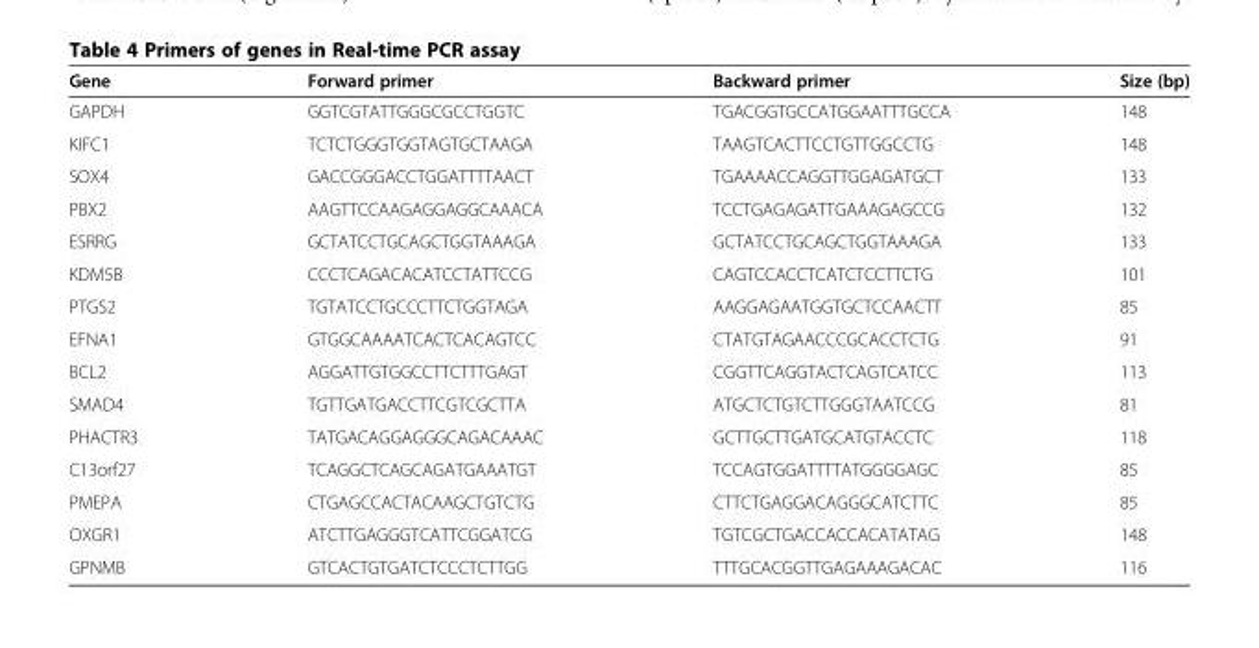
<table><thead><tr><td>Gene</td><td>Forward primer</td><td>Backward primer</td><td>Size (bp)</td></tr></thead><tbody><tr><td>GAPDH</td><td>GGTCGTATTGGGCGCCTGGTC</td><td>TGACGGTGCCATGGAATTTGCCA</td><td>148</td></tr><tr><td>KIFC1</td><td>TCTCTGGGTGGTAGTGCTAAGA</td><td>TAAGTCACTTCCTGTTGGCCTG</td><td>148</td></tr><tr><td>SOX4</td><td>GACCGGGACCTGGATTTTAACT</td><td>TGAAAACCAGGTTGGAGATGCT</td><td>133</td></tr><tr><td>PBX2</td><td>AAGTTCCAAGAGGAGGCAAACA</td><td>TCCTGAGAGATTGAAAGAGCCG</td><td>132</td></tr><tr><td>ESRRG</td><td>GCTATCCTGCAGCTGGTAAAGA</td><td>GCTATCCTGCAGCTGGTAAAGA</td><td>133</td></tr><tr><td>KDM5B</td><td>CCCTCAGACACATCCTATTCCG</td><td>CAGTCCACCTCATCTCCTTCTG</td><td>101</td></tr><tr><td>PTGS2</td><td>TGTATCCTGCCCTTCTGGTAGA</td><td>AAGGAGAATGGTGCTCCAACTT</td><td>85</td></tr><tr><td>EFNA1</td><td>GTGGCAAAATCACTCACAGTCC</td><td>CTATGTAGAACCCGCACCTCTG</td><td>91</td></tr><tr><td>BCL2</td><td>AGGATTGTGGCCTTCTTTGAGT</td><td>CGGTTCAGGTACTCAGTCATCC</td><td>113</td></tr><tr><td>SMAD4</td><td>TGTTGATGACCTTCGTCGCTTA</td><td>ATGCTCTGTCTTGGGTAATCCG</td><td>81</td></tr><tr><td>PHACTR3</td><td>TATGACAGGAGGGCAGACAAAC</td><td>GCTTGCTTGATGCATGTACCTC</td><td>118</td></tr><tr><td>C13orf27</td><td>TCAGGCTCAGCAGATGAAATGT</td><td>TCCAGTGGATTTTATGGGGAGC</td><td>85</td></tr><tr><td>PMEPA</td><td>CTGAGCCACTACAAGCTGTCTG</td><td>CTTCTGAGGACAGGGCATCTTC</td><td>85</td></tr><tr><td>OXGR1</td><td>ATCTTGAGGGTCATTCGGATCG</td><td>TGTCGCTGACCACCACATATAG</td><td>148</td></tr><tr><td>GPNMB</td><td>GTCACTGTGATCTCCCTCTTGG</td><td>TTTGCACGGTTGAGAAAGACAC</td><td>116</td></tr></tbody></table>